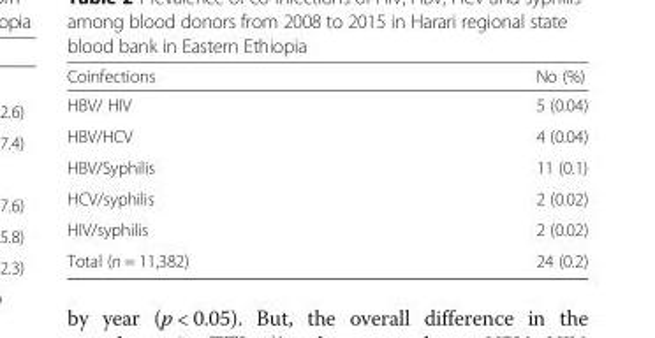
<table><thead><tr><td>Coinfections</td><td>No (%)</td></tr></thead><tbody><tr><td>HBV/ HIV</td><td>5 (0.04)</td></tr><tr><td>HBV/HCV</td><td>4 (0.04)</td></tr><tr><td>HBV/Syphilis</td><td>11 (0.1)</td></tr><tr><td>HCV/syphilis</td><td>2 (0.02)</td></tr><tr><td>HIV/syphilis</td><td>2 (0.02)</td></tr><tr><td>Total (n = 11,382)</td><td>24 (0.2)</td></tr></tbody></table>